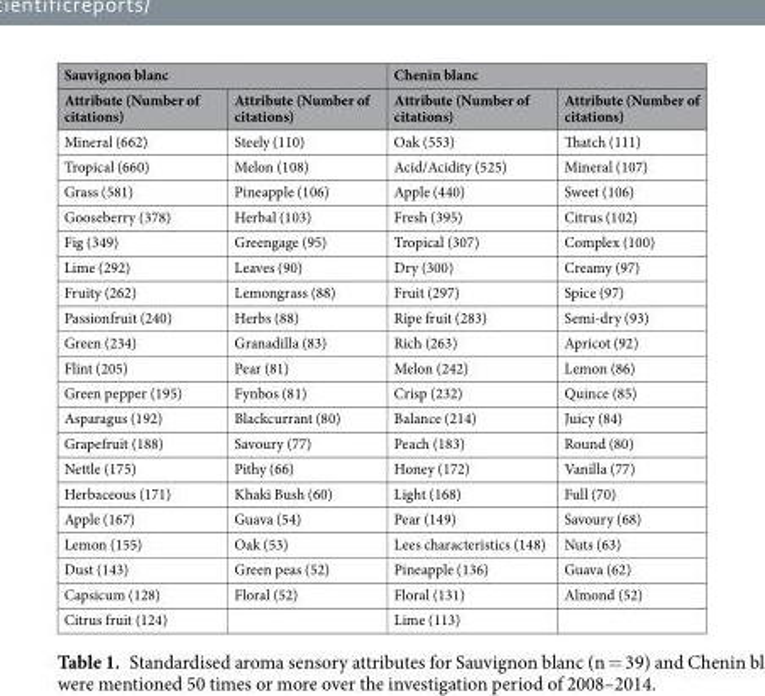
<table><thead><tr><td colspan="2">Sauvignon blanc</td><td colspan="2">Chenin blanc</td></tr><tr><td>Attribute (Number of citations)</td><td>Attribute (Number of citations)</td><td>Attribute (Number of citations)</td><td>Attribute (Number of citations)</td></tr></thead><tbody><tr><td>Mineral (662)</td><td>Steely (110)</td><td>Oak (553)</td><td>Thatch (111)</td></tr><tr><td>Tropical (660)</td><td>Melon (108)</td><td>Acid/Acidity (525)</td><td>Mineral (107)</td></tr><tr><td>Grass (581)</td><td>Pineapple (106)</td><td>Apple (440)</td><td>Sweet (106)</td></tr><tr><td>Gooseberry (378)</td><td>Herbal (103)</td><td>Fresh (395)</td><td>Citrus (102)</td></tr><tr><td>Fig (349)</td><td>Greengage (95)</td><td>Tropical (307)</td><td>Complex (100)</td></tr><tr><td>Lime (292)</td><td>Leaves (90)</td><td>Dry (300)</td><td>Creamy (97)</td></tr><tr><td>Fruity (262)</td><td>Lemongrass (88)</td><td>Fruit (297)</td><td>Spice (97)</td></tr><tr><td>Passionfruit (240)</td><td>Herbs (88)</td><td>Ripe fruit (283)</td><td>Semi-dry (93)</td></tr><tr><td>Green (234)</td><td>Granadilla (83)</td><td>Rich (263)</td><td>Apricot (92)</td></tr><tr><td>Flint (205)</td><td>Pear (81)</td><td>Melon (242)</td><td>Lemon (86)</td></tr><tr><td>Green pepper (195)</td><td>Fynbos (81)</td><td>Crisp (232)</td><td>Quince (85)</td></tr><tr><td>Asparagus (192)</td><td>Blackcurrant (80)</td><td>Balance (214)</td><td>Juicy (84)</td></tr><tr><td>Grapefruit (188)</td><td>Savoury (77)</td><td>Peach (183)</td><td>Round (80)</td></tr><tr><td>Nettle (175)</td><td>Pithy (66)</td><td>Honey (172)</td><td>Vanilla (77)</td></tr><tr><td>Herbaceous (171)</td><td>Khaki Bush (60)</td><td>Light (168)</td><td>Full (70)</td></tr><tr><td>Apple (167)</td><td>Guava (54)</td><td>Pear (149)</td><td>Savoury (68)</td></tr><tr><td>Lemon (155)</td><td>Oak (53)</td><td>Lees characteristics (148)</td><td>Nuts (63)</td></tr><tr><td>Dust (143)</td><td>Green peas (52)</td><td>Pineapple (136)</td><td>Guava (62)</td></tr><tr><td>Capsicum (128)</td><td>Floral (52)</td><td>Floral (131)</td><td>Almond (52)</td></tr><tr><td>Citrus fruit (124)</td><td></td><td>Lime (113)</td><td></td></tr></tbody></table>